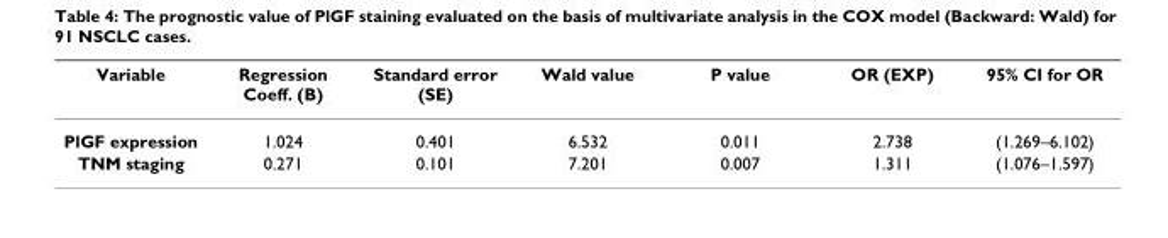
<table><thead><tr><td>Variable</td><td>Regression Coeff. (B)</td><td>Standard error (SE)</td><td>Wald value</td><td>P value</td><td>OR (EXP)</td><td>95% CI for OR</td></tr></thead><tbody><tr><td>PlGF expression</td><td>1.024</td><td>0.401</td><td>6.532</td><td>0.011</td><td>2.738</td><td>(1.269–6.102)</td></tr><tr><td>TNM staging</td><td>0.271</td><td>0.101</td><td>7.201</td><td>0.007</td><td>1.311</td><td>(1.076–1.597)</td></tr></tbody></table>